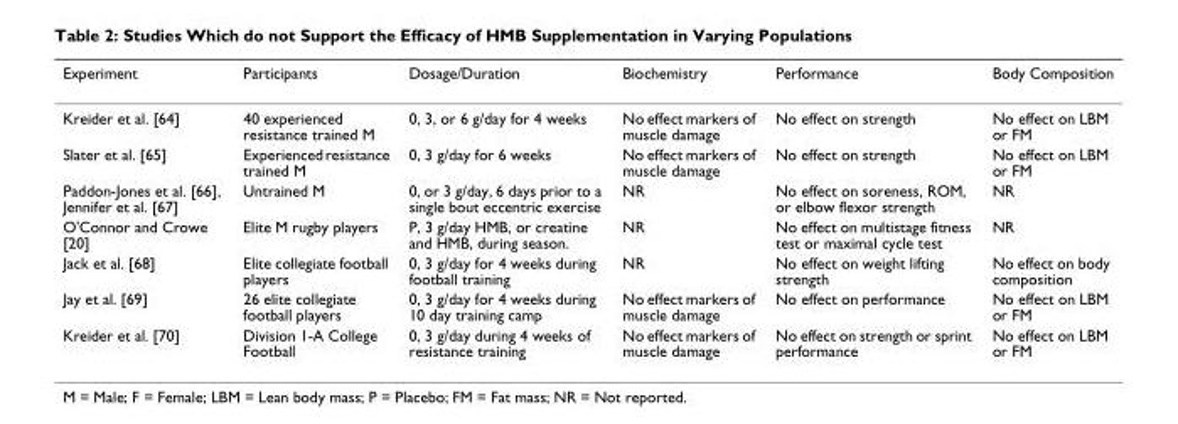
<table><thead><tr><td>Experiment</td><td>Participants</td><td>Dosage/Duration</td><td>Biochemistry</td><td>Performance</td><td>Body Composition</td></tr></thead><tbody><tr><td>Kreider et al. [64]</td><td>40 experienced resistance trained M</td><td>0, 3, or 6 g/day for 4 weeks</td><td>No effect markers of muscle damage</td><td>No effect on strength</td><td>No effect on LBM or FM</td></tr><tr><td>Slater et al. [65]</td><td>Experienced resistance trained M</td><td>0, 3 g/day for 6 weeks</td><td>No effect markers of muscle damage</td><td>No effect on strength</td><td>No effect on LBM or FM</td></tr><tr><td>Paddon-Jones et al. [66], Jennifer et al. [67]</td><td>Untrained M</td><td>0, or 3 g/day, 6 days prior to a single bout eccentric exercise</td><td>NR</td><td>No effect on soreness, ROM, or elbow flexor strength</td><td>NR</td></tr><tr><td>O&#x27;Connor and Crowe [20]</td><td>Elite M rugby players</td><td>P, 3 g/day HMB, or creatine and HMB, during season.</td><td>NR</td><td>No effect on multistage fitness test or maximal cycle test</td><td>NR</td></tr><tr><td>Jack et al. [68]</td><td>Elite collegiate football players</td><td>0, 3 g/day for 4 weeks during football training</td><td>NR</td><td>No effect on weight lifting strength</td><td>No effect on body composition</td></tr><tr><td>Jay et al. [69]</td><td>26 elite collegiate football players</td><td>0, 3 g/day for 4 weeks during 10 day training camp</td><td>No effect markers of muscle damage</td><td>No effect on performance</td><td>No effect on LBM or FM</td></tr><tr><td>Kreider et al. [70]</td><td>Division 1-A College Football</td><td>0, 3 g/day during 4 weeks of resistance training</td><td>No effect markers of muscle damage</td><td>No effect on strength or sprint performance</td><td>No effect on LBM or FM</td></tr></tbody></table>